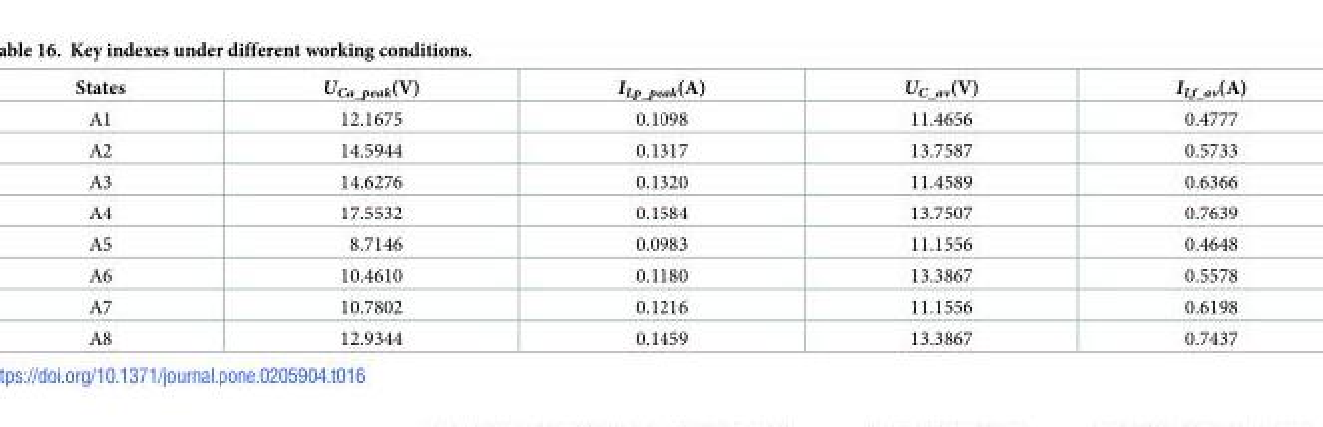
<table><thead><tr><td>States</td><td>U<sub>Ca_peak</sub>(V)</td><td>I<sub>Lp_peak</sub>(A)</td><td>U<sub>C_av</sub>(V)</td><td>I<sub>Lf_av</sub>(A)</td></tr></thead><tbody><tr><td>A1</td><td>12.1675</td><td>0.1098</td><td>11.4656</td><td>0.4777</td></tr><tr><td>A2</td><td>14.5944</td><td>0.1317</td><td>13.7587</td><td>0.5733</td></tr><tr><td>A3</td><td>14.6276</td><td>0.1320</td><td>11.4589</td><td>0.6366</td></tr><tr><td>A4</td><td>17.5532</td><td>0.1584</td><td>13.7507</td><td>0.7639</td></tr><tr><td>A5</td><td>8.7146</td><td>0.0983</td><td>11.1556</td><td>0.4648</td></tr><tr><td>A6</td><td>10.4610</td><td>0.1180</td><td>13.3867</td><td>0.5578</td></tr><tr><td>A7</td><td>10.7802</td><td>0.1216</td><td>11.1556</td><td>0.6198</td></tr><tr><td>A8</td><td>12.9344</td><td>0.1459</td><td>13.3867</td><td>0.7437</td></tr></tbody></table>